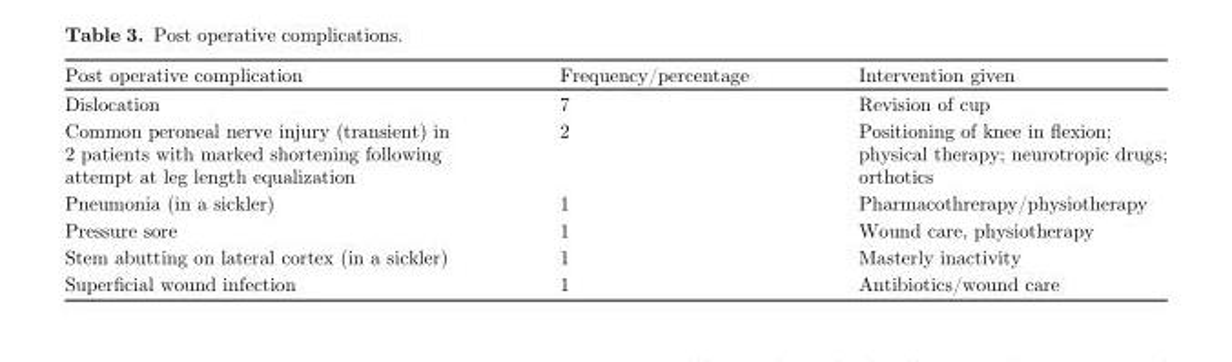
<table><thead><tr><td>Post operative complication</td><td>Frequency/percentage</td><td>Intervention given</td></tr></thead><tbody><tr><td>Dislocation</td><td>7</td><td>Revision of cup</td></tr><tr><td>Common peroneal nerve injury (transient) in 2 patients with marked shortening following attempt at leg length equalization</td><td>2</td><td>Positioning of knee in flexion; physical therapy; neurotropic drugs; orthotics</td></tr><tr><td>Pneumonia (in a sickler)</td><td>1</td><td>Pharmacothrerapy/physiotherapy</td></tr><tr><td>Pressure sore</td><td>1</td><td>Wound care, physiotherapy</td></tr><tr><td>Stem abutting on lateral cortex (in a sickler)</td><td>1</td><td>Masterly inactivity</td></tr><tr><td>Superficial wound infection</td><td>1</td><td>Antibiotics/wound care</td></tr></tbody></table>